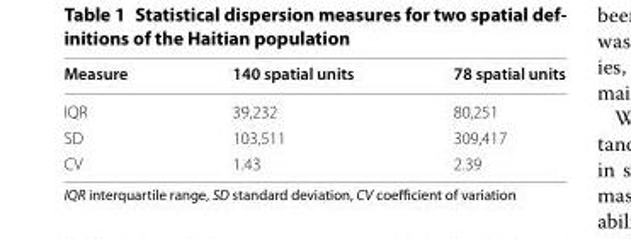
<table><thead><tr><td>Measure</td><td>140 spatial units</td><td>78 spatial units</td></tr></thead><tbody><tr><td>IQR</td><td>39,232</td><td>80,251</td></tr><tr><td>SD</td><td>103,511</td><td>309,417</td></tr><tr><td>CV</td><td>1.43</td><td>2.39</td></tr></tbody></table>